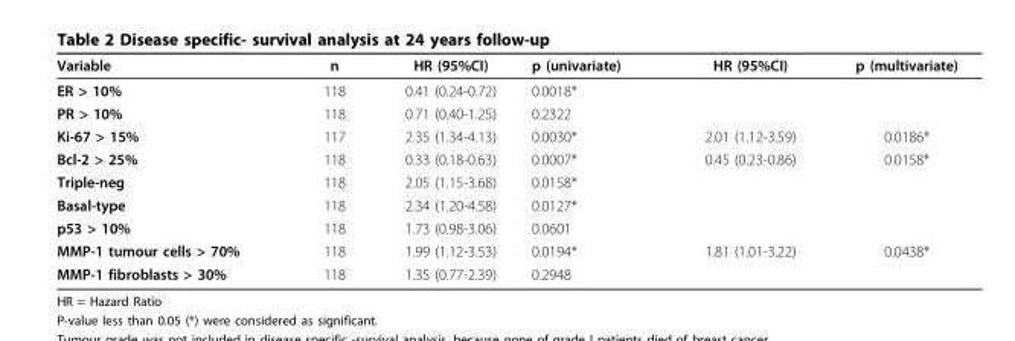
<table><thead><tr><td>Variable</td><td>n</td><td>HR (95%CI)</td><td>p (univariate)</td><td>HR (95%CI)</td><td>p (multivariate)</td></tr></thead><tbody><tr><td>ER &gt; 10%</td><td>118</td><td>0.41 (0.24-0.72)</td><td>0.0018*</td><td></td><td></td></tr><tr><td>PR &gt; 10%</td><td>118</td><td>0.71 (0.40-1.25)</td><td>0.2322</td><td></td><td></td></tr><tr><td>Ki-67 &gt; 15%</td><td>117</td><td>2.35 (1.34-4.13)</td><td>0.0030*</td><td>2.01 (1.12-3.59)</td><td>0.0186*</td></tr><tr><td>Bcl-2 &gt; 25%</td><td>118</td><td>0.33 (0.18-0.63)</td><td>0.0007*</td><td>0.45 (0.23-0.86)</td><td>0.0158*</td></tr><tr><td>Triple-neg</td><td>118</td><td>2.05 (1.15-3.68)</td><td>0.0158*</td><td></td><td></td></tr><tr><td>Basal-type</td><td>118</td><td>2.34 (1.20-4.58)</td><td>0.0127*</td><td></td><td></td></tr><tr><td>p53 &gt; 10%</td><td>118</td><td>1.73 (0.98-3.06)</td><td>0.0601</td><td></td><td></td></tr><tr><td>MMP-1 tumour cells &gt; 70%</td><td>118</td><td>1.99 (1.12-3.53)</td><td>0.0194*</td><td>1.81 (1.01-3.22)</td><td>0.0438*</td></tr><tr><td>MMP-1 fibroblasts &gt; 30%</td><td>118</td><td>1.35 (0.77-2.39)</td><td>0.2948</td><td></td><td></td></tr></tbody></table>